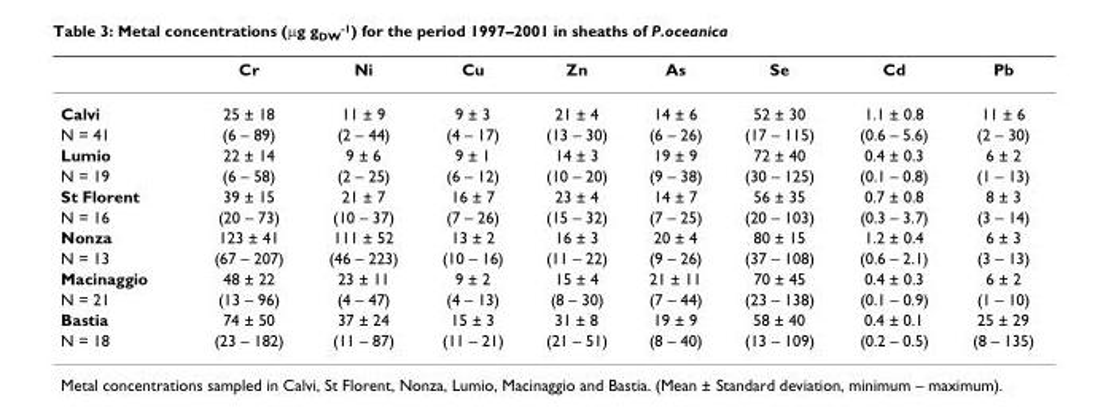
<table><thead><tr><td></td><td>Cr</td><td>Ni</td><td>Cu</td><td>Zn</td><td>As</td><td>Se</td><td>Cd</td><td>Pb</td></tr></thead><tbody><tr><td>Calvi</td><td>25 ± 18</td><td>11 ± 9</td><td>9 ± 3</td><td>21 ± 4</td><td>14 ± 6</td><td>52 ± 30</td><td>1.1 ± 0.8</td><td>11 ± 6</td></tr><tr><td>N = 41</td><td>(6 – 89)</td><td>(2 – 44)</td><td>(4 – 17)</td><td>(13 – 30)</td><td>(6 – 26)</td><td>(17 – 115)</td><td>(0.6 – 5.6)</td><td>(2 – 30)</td></tr><tr><td>Lumio</td><td>22 ± 14</td><td>9 ± 6</td><td>9 ± 1</td><td>14 ± 3</td><td>19 ± 9</td><td>72 ± 40</td><td>0.4 ± 0.3</td><td>6 ± 2</td></tr><tr><td>N = 19</td><td>(6 – 58)</td><td>(2 – 25)</td><td>(6 – 12)</td><td>(10 – 20)</td><td>(9 – 38)</td><td>(30 – 125)</td><td>(0.1 – 0.8)</td><td>(1 – 13)</td></tr><tr><td>St Florent</td><td>39 ± 15</td><td>21 ± 7</td><td>16 ± 7</td><td>23 ± 4</td><td>14 ± 7</td><td>56 ± 35</td><td>0.7 ± 0.8</td><td>8 ± 3</td></tr><tr><td>N = 16</td><td>(20 – 73)</td><td>(10 – 37)</td><td>(7 – 26)</td><td>(15 – 32)</td><td>(7 – 25)</td><td>(20 – 103)</td><td>(0.3 – 3.7)</td><td>(3 – 14)</td></tr><tr><td>Nonza</td><td>123 ± 41</td><td>111 ± 52</td><td>13 ± 2</td><td>16 ± 3</td><td>20 ± 4</td><td>80 ± 15</td><td>1.2 ± 0.4</td><td>6 ± 3</td></tr><tr><td>N = 13</td><td>(67 – 207)</td><td>(46 – 223)</td><td>(10 – 16)</td><td>(11 – 22)</td><td>(9 – 26)</td><td>(37 – 108)</td><td>(0.6 – 2.1)</td><td>(3 – 13)</td></tr><tr><td>Macinaggio</td><td>48 ± 22</td><td>23 ± 11</td><td>9 ± 2</td><td>15 ± 4</td><td>21 ± 11</td><td>70 ± 45</td><td>0.4 ± 0.3</td><td>6 ± 2</td></tr><tr><td>N = 21</td><td>(13 – 96)</td><td>(4 – 47)</td><td>(4 – 13)</td><td>(8 – 30)</td><td>(7 – 44)</td><td>(23 – 138)</td><td>(0.1 – 0.9)</td><td>(1 – 10)</td></tr><tr><td>Bastia</td><td>74 ± 50</td><td>37 ± 24</td><td>15 ± 3</td><td>31 ± 8</td><td>19 ± 9</td><td>58 ± 40</td><td>0.4 ± 0.1</td><td>25 ± 29</td></tr><tr><td>N = 18</td><td>(23 – 182)</td><td>(11 – 87)</td><td>(11 – 21)</td><td>(21 – 51)</td><td>(8 – 40)</td><td>(13 – 109)</td><td>(0.2 – 0.5)</td><td>(8 – 135)</td></tr></tbody></table>